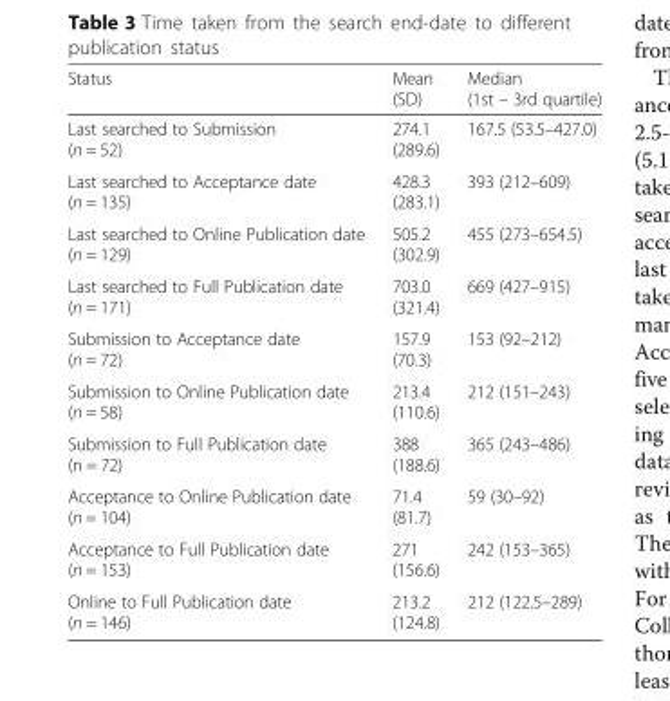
<table><thead><tr><td>Status</td><td>Mean (SD)</td><td>Median (1st – 3rd quartile)</td></tr></thead><tbody><tr><td>Last searched to Submission (n = 52)</td><td>274.1 (289.6)</td><td>167.5 (53.5–427.0)</td></tr><tr><td>Last searched to Acceptance date (n = 135)</td><td>428.3 (283.1)</td><td>393 (212–609)</td></tr><tr><td>Last searched to Online Publication date (n = 129)</td><td>505.2 (302.9)</td><td>455 (273–654.5)</td></tr><tr><td>Last searched to Full Publication date (n = 171)</td><td>703.0 (321.4)</td><td>669 (427–915)</td></tr><tr><td>Submission to Acceptance date (n = 72)</td><td>157.9 (70.3)</td><td>153 (92–212)</td></tr><tr><td>Submission to Online Publication date (n = 58)</td><td>213.4 (110.6)</td><td>212 (151–243)</td></tr><tr><td>Submission to Full Publication date (n = 72)</td><td>388 (188.6)</td><td>365 (243–486)</td></tr><tr><td>Acceptance to Online Publication date (n = 104)</td><td>71.4 (81.7)</td><td>59 (30–92)</td></tr><tr><td>Acceptance to Full Publication date (n = 153)</td><td>271 (156.6)</td><td>242 (153–365)</td></tr><tr><td>Online to Full Publication date (n = 146)</td><td>213.2 (124.8)</td><td>212 (122.5–289)</td></tr></tbody></table>